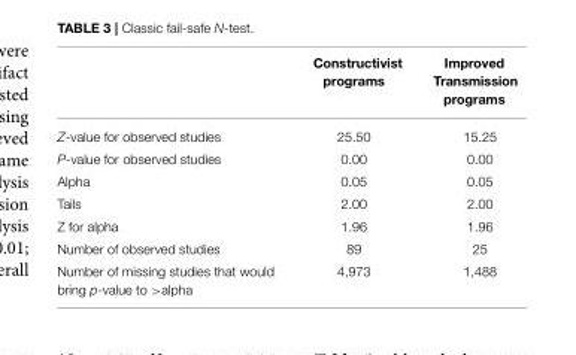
<table><thead><tr><td></td><td>Constructivist programs</td><td>Improved Transmission programs</td></tr></thead><tbody><tr><td>Z-value for observed studies</td><td>25.50</td><td>15.25</td></tr><tr><td>P-value for observed studies</td><td>0.00</td><td>0.00</td></tr><tr><td>Alpha</td><td>0.05</td><td>0.05</td></tr><tr><td>Tails</td><td>2.00</td><td>2.00</td></tr><tr><td>Z for alpha</td><td>1.96</td><td>1.96</td></tr><tr><td>Number of observed studies</td><td>89</td><td>25</td></tr><tr><td>Number of missing studies that would bring p-value to &gt;alpha</td><td>4,973</td><td>1,488</td></tr></tbody></table>